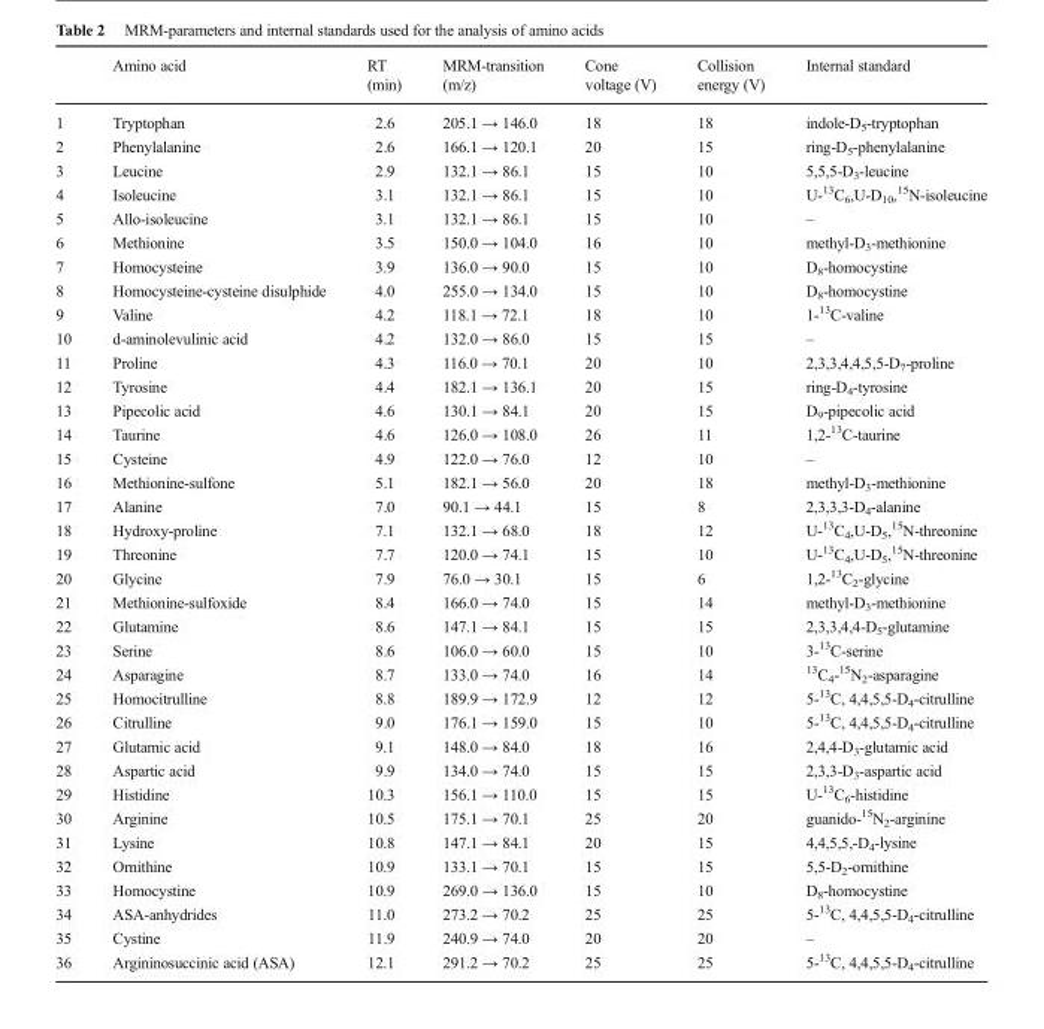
<table><thead><tr><td></td><td>Amino acid</td><td>RT (min)</td><td>MRM-transition (m/z)</td><td>Cone voltage (V)</td><td>Collision energy (V)</td><td>Internal standard</td></tr></thead><tbody><tr><td>1</td><td>Tryptophan</td><td>2.6</td><td>205.1 → 146.0</td><td>18</td><td>18</td><td>indole-D<sub>5</sub>-tryptophan</td></tr><tr><td>2</td><td>Phenylalanine</td><td>2.6</td><td>166.1 → 120.1</td><td>20</td><td>15</td><td>ring-D<sub>5</sub>-phenylalanine</td></tr><tr><td>3</td><td>Leucine</td><td>2.9</td><td>132.1 → 86.1</td><td>15</td><td>10</td><td>5,5,5-D<sub>3</sub>-leucine</td></tr><tr><td>4</td><td>Isoleucine</td><td>3.1</td><td>132.1 → 86.1</td><td>15</td><td>10</td><td>U-<sup>13</sup>C<sub>6</sub>,U-D<sub>10</sub>,<sup>15</sup>N-isoleucine</td></tr><tr><td>5</td><td>Allo-isoleucine</td><td>3.1</td><td>132.1 → 86.1</td><td>15</td><td>10</td><td>–</td></tr><tr><td>6</td><td>Methionine</td><td>3.5</td><td>150.0 → 104.0</td><td>16</td><td>10</td><td>methyl-D<sub>3</sub>-methionine</td></tr><tr><td>7</td><td>Homocysteine</td><td>3.9</td><td>136.0 → 90.0</td><td>15</td><td>10</td><td>D<sub>8</sub>-homocystine</td></tr><tr><td>8</td><td>Homocysteine-cysteine disulphide</td><td>4.0</td><td>255.0 → 134.0</td><td>15</td><td>10</td><td>D<sub>8</sub>-homocystine</td></tr><tr><td>9</td><td>Valine</td><td>4.2</td><td>118.1 → 72.1</td><td>18</td><td>10</td><td>1-<sup>13</sup>C-valine</td></tr><tr><td>10</td><td>d-aminolevulinic acid</td><td>4.2</td><td>132.0 → 86.0</td><td>15</td><td>15</td><td>–</td></tr><tr><td>11</td><td>Proline</td><td>4.3</td><td>116.0 → 70.1</td><td>20</td><td>10</td><td>2,3,3,4,4,5,5-D<sub>7</sub>-proline</td></tr><tr><td>12</td><td>Tyrosine</td><td>4.4</td><td>182.1 → 136.1</td><td>20</td><td>15</td><td>ring-D<sub>4</sub>-tyrosine</td></tr><tr><td>13</td><td>Pipecolic acid</td><td>4.6</td><td>130.1 → 84.1</td><td>20</td><td>15</td><td>D<sub>9</sub>-pipecolic acid</td></tr><tr><td>14</td><td>Taurine</td><td>4.6</td><td>126.0 → 108.0</td><td>26</td><td>11</td><td>1,2-<sup>13</sup>C-taurine</td></tr><tr><td>15</td><td>Cysteine</td><td>4.9</td><td>122.0 → 76.0</td><td>12</td><td>10</td><td>–</td></tr><tr><td>16</td><td>Methionine-sulfone</td><td>5.1</td><td>182.1 → 56.0</td><td>20</td><td>18</td><td>methyl-D<sub>3</sub>-methionine</td></tr><tr><td>17</td><td>Alanine</td><td>7.0</td><td>90.1 → 44.1</td><td>15</td><td>8</td><td>2,3,3,3-D<sub>4</sub>-alanine</td></tr><tr><td>18</td><td>Hydroxy-proline</td><td>7.1</td><td>132.1 → 68.0</td><td>18</td><td>12</td><td>U-<sup>13</sup>C<sub>4</sub>,U-D<sub>5</sub>,<sup>15</sup>N-threonine</td></tr><tr><td>19</td><td>Threonine</td><td>7.7</td><td>120.0 → 74.1</td><td>15</td><td>10</td><td>U-<sup>13</sup>C<sub>4</sub>,U-D<sub>5</sub>,<sup>15</sup>N-threonine</td></tr><tr><td>20</td><td>Glycine</td><td>7.9</td><td>76.0 → 30.1</td><td>15</td><td>6</td><td>1,2-<sup>13</sup>C<sub>2</sub>-glycine</td></tr><tr><td>21</td><td>Methionine-sulfoxide</td><td>8.4</td><td>166.0 → 74.0</td><td>15</td><td>14</td><td>methyl-D<sub>3</sub>-methionine</td></tr><tr><td>22</td><td>Glutamine</td><td>8.6</td><td>147.1 → 84.1</td><td>15</td><td>15</td><td>2,3,3,4,4-D<sub>5</sub>-glutamine</td></tr><tr><td>23</td><td>Serine</td><td>8.6</td><td>106.0 → 60.0</td><td>15</td><td>10</td><td>3-<sup>13</sup>C-serine</td></tr><tr><td>24</td><td>Asparagine</td><td>8.7</td><td>133.0 → 74.0</td><td>16</td><td>14</td><td><sup>13</sup>C<sub>4</sub>-<sup>15</sup>N<sub>2</sub>-asparagine</td></tr><tr><td>25</td><td>Homocitrulline</td><td>8.8</td><td>189.9 → 172.9</td><td>12</td><td>12</td><td>5-<sup>13</sup>C, 4,4,5,5-D<sub>4</sub>-citrulline</td></tr><tr><td>26</td><td>Citrulline</td><td>9.0</td><td>176.1 → 159.0</td><td>15</td><td>10</td><td>5-<sup>13</sup>C, 4,4,5,5-D<sub>4</sub>-citrulline</td></tr><tr><td>27</td><td>Glutamic acid</td><td>9.1</td><td>148.0 → 84.0</td><td>18</td><td>16</td><td>2,4,4-D<sub>3</sub>-glutamic acid</td></tr><tr><td>28</td><td>Aspartic acid</td><td>9.9</td><td>134.0 → 74.0</td><td>15</td><td>15</td><td>2,3,3-D<sub>3</sub>-aspartic acid</td></tr><tr><td>29</td><td>Histidine</td><td>10.3</td><td>156.1 → 110.0</td><td>15</td><td>15</td><td>U-<sup>13</sup>C<sub>6</sub>-histidine</td></tr><tr><td>30</td><td>Arginine</td><td>10.5</td><td>175.1 → 70.1</td><td>25</td><td>20</td><td>guanido-<sup>15</sup>N<sub>2</sub>-arginine</td></tr><tr><td>31</td><td>Lysine</td><td>10.8</td><td>147.1 → 84.1</td><td>20</td><td>15</td><td>4,4,5,5,-D<sub>4</sub>-lysine</td></tr><tr><td>32</td><td>Ornithine</td><td>10.9</td><td>133.1 → 70.1</td><td>15</td><td>15</td><td>5,5-D<sub>2</sub>-ornithine</td></tr><tr><td>33</td><td>Homocystine</td><td>10.9</td><td>269.0 → 136.0</td><td>15</td><td>10</td><td>D<sub>8</sub>-homocystine</td></tr><tr><td>34</td><td>ASA-anhydrides</td><td>11.0</td><td>273.2 → 70.2</td><td>25</td><td>25</td><td>5-<sup>13</sup>C, 4,4,5,5-D<sub>4</sub>-citrulline</td></tr><tr><td>35</td><td>Cystine</td><td>11.9</td><td>240.9 → 74.0</td><td>20</td><td>20</td><td>–</td></tr><tr><td>36</td><td>Argininosuccinic acid (ASA)</td><td>12.1</td><td>291.2 → 70.2</td><td>25</td><td>25</td><td>5-<sup>13</sup>C, 4,4,5,5-D<sub>4</sub>-citrulline</td></tr></tbody></table>